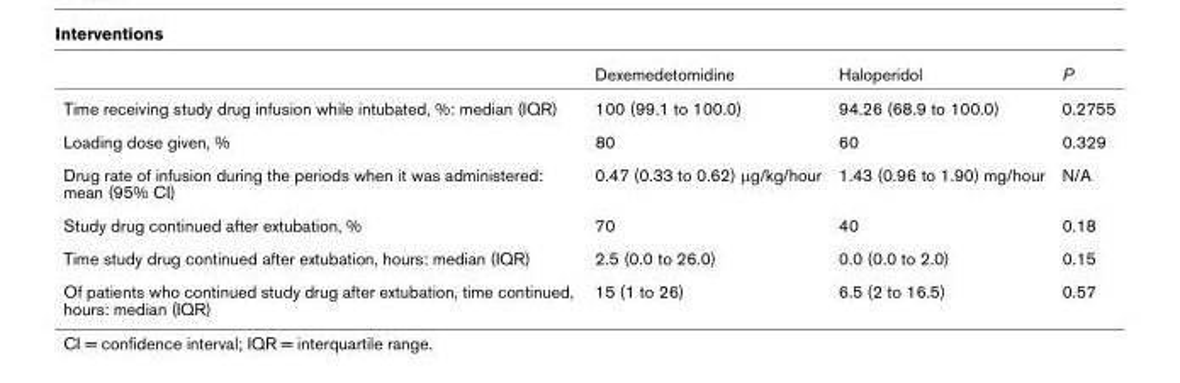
<table><thead><tr><td></td><td>Dexemedetomidine</td><td>Haloperidol</td><td>P</td></tr></thead><tbody><tr><td>Time receiving study drug infusion while intubated, %: median (IQR)</td><td>100 (99.1 to 100.0)</td><td>94.26 (68.9 to 100.0)</td><td>0.2755</td></tr><tr><td>Loading dose given, %</td><td>80</td><td>60</td><td>0.329</td></tr><tr><td>Drug rate of infusion during the periods when it was administered: mean (95% CI)</td><td>0.47 (0.33 to 0.62) μg/kg/hour</td><td>1.43 (0.96 to 1.90) mg/hour</td><td>N/A</td></tr><tr><td>Study drug continued after extubation, %</td><td>70</td><td>40</td><td>0.18</td></tr><tr><td>Time study drug continued after extubation, hours: median (IQR)</td><td>2.5 (0.0 to 26.0)</td><td>0.0 (0.0 to 2.0)</td><td>0.15</td></tr><tr><td>Of patients who continued study drug after extubation, time continued, hours: median (IQR)</td><td>15 (1 to 26)</td><td>6.5 (2 to 16.5)</td><td>0.57</td></tr></tbody></table>